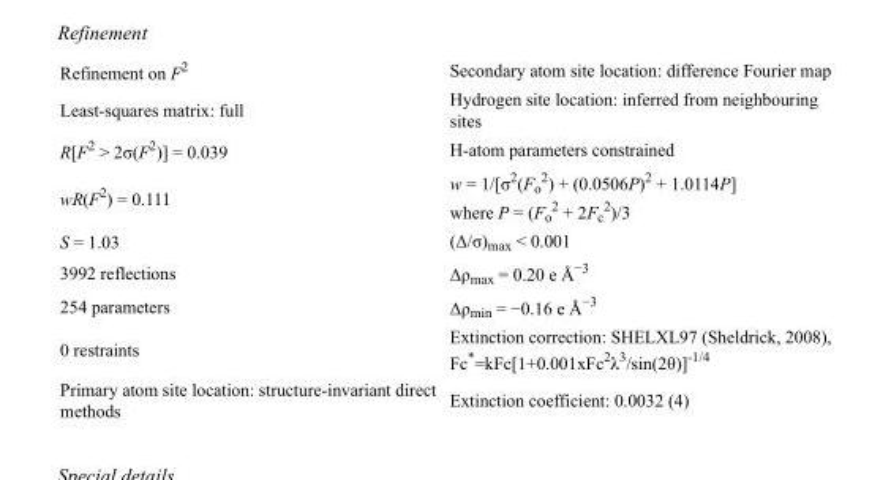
<table><tbody><tr><td>Refinement on F<sup>2</sup></td><td>Secondary atom site location: difference Fourier map</td></tr><tr><td>Least-squares matrix: full</td><td>Hydrogen site location: inferred from neighbouring sites</td></tr><tr><td>R[F<sup>2</sup> &gt; 2σ(F<sup>2</sup>)] = 0.039</td><td>H-atom parameters constrained</td></tr><tr><td>wR(F<sup>2</sup>) = 0.111</td><td>w = 1/[σ<sup>2</sup>(F<sub>o</sub> <sup>2</sup>) + (0.0506P)<sup>2</sup> + 1.0114P] where P = (F<sub>o</sub> <sup>2</sup> + 2F<sub>c</sub> <sup>2</sup>)/3</td></tr><tr><td>S = 1.03</td><td>(Δ/σ)<sub>max</sub> &lt; 0.001</td></tr><tr><td>3992 reflections</td><td>Δρ<sub>max</sub> = 0.20 e Å<sup>−3</sup></td></tr><tr><td>254 parameters</td><td>Δρ<sub>min</sub> = −0.16 e Å<sup>−3</sup></td></tr><tr><td>0 restraints</td><td>Extinction correction: SHELXL97 (Sheldrick, 2008), Fc*=kFc[1+0.001xFc<sup>2</sup>λ<sup>3</sup>/sin(2θ)]<sup>-1/4</sup></td></tr><tr><td>Primary atom site location: structure-invariant direct methods</td><td>Extinction coefficient: 0.0032 (4)</td></tr></tbody></table>